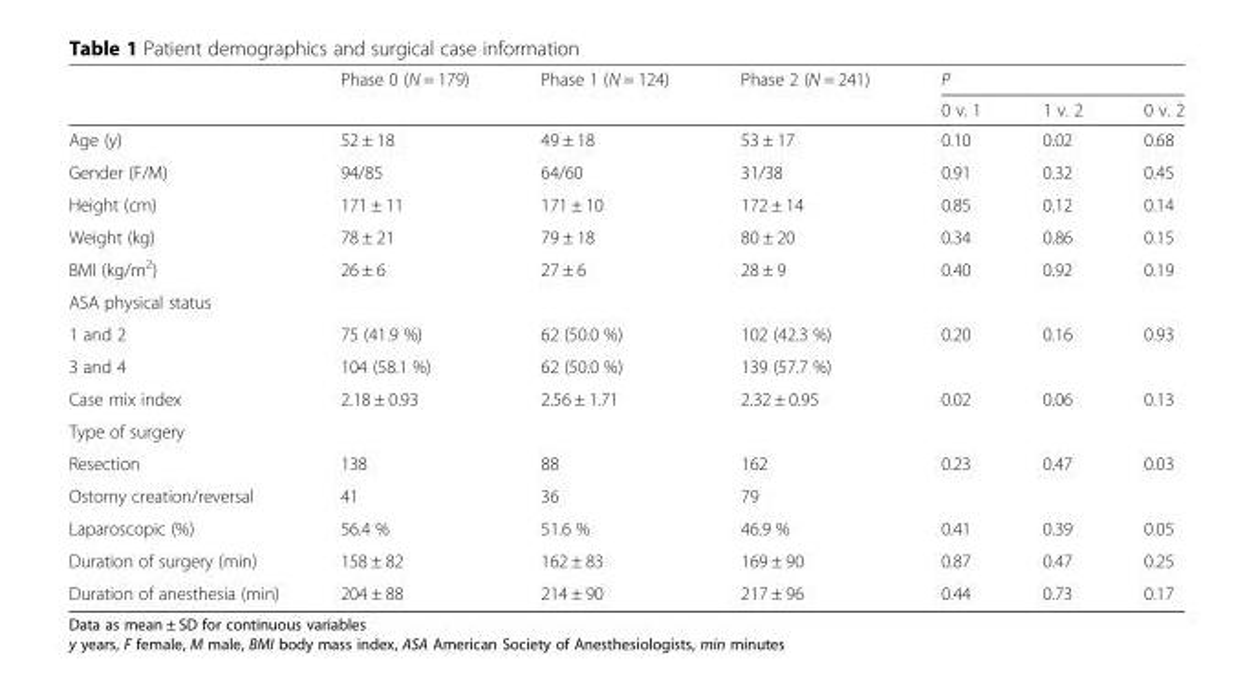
<table><thead><tr><td rowspan="2"></td><td rowspan="2">Phase 0 (N = 179)</td><td rowspan="2">Phase 1 (N = 124)</td><td rowspan="2">Phase 2 (N = 241)</td><td colspan="3">P</td></tr><tr><td>0 v. 1</td><td>1 v. 2</td><td>0 v. 2</td></tr></thead><tbody><tr><td>Age (y)</td><td>52 ± 18</td><td>49 ± 18</td><td>53 ± 17</td><td>0.10</td><td>0.02</td><td>0.68</td></tr><tr><td>Gender (F/M)</td><td>94/85</td><td>64/60</td><td>31/38</td><td>0.91</td><td>0.32</td><td>0.45</td></tr><tr><td>Height (cm)</td><td>171 ± 11</td><td>171 ± 10</td><td>172 ± 14</td><td>0.85</td><td>0.12</td><td>0.14</td></tr><tr><td>Weight (kg)</td><td>78 ± 21</td><td>79 ± 18</td><td>80 ± 20</td><td>0.34</td><td>0.86</td><td>0.15</td></tr><tr><td>BMI (kg/m<sup>2</sup>)</td><td>26 ± 6</td><td>27 ± 6</td><td>28 ± 9</td><td>0.40</td><td>0.92</td><td>0.19</td></tr><tr><td colspan="7">ASA physical status</td></tr><tr><td>1 and 2</td><td>75 (41.9 %)</td><td>62 (50.0 %)</td><td>102 (42.3 %)</td><td rowspan="2">0.20</td><td rowspan="2">0.16</td><td rowspan="2">0.93</td></tr><tr><td>3 and 4</td><td>104 (58.1 %)</td><td>62 (50.0 %)</td><td>139 (57.7 %)</td></tr><tr><td>Case mix index</td><td>2.18 ± 0.93</td><td>2.56 ± 1.71</td><td>2.32 ± 0.95</td><td>0.02</td><td>0.06</td><td>0.13</td></tr><tr><td colspan="7">Type of surgery</td></tr><tr><td>Resection</td><td>138</td><td>88</td><td>162</td><td rowspan="2">0.23</td><td rowspan="2">0.47</td><td rowspan="2">0.03</td></tr><tr><td>Ostomy creation/reversal</td><td>41</td><td>36</td><td>79</td></tr><tr><td>Laparoscopic (%)</td><td>56.4 %</td><td>51.6 %</td><td>46.9 %</td><td>0.41</td><td>0.39</td><td>0.05</td></tr><tr><td>Duration of surgery (min)</td><td>158 ± 82</td><td>162 ± 83</td><td>169 ± 90</td><td>0.87</td><td>0.47</td><td>0.25</td></tr><tr><td>Duration of anesthesia (min)</td><td>204 ± 88</td><td>214 ± 90</td><td>217 ± 96</td><td>0.44</td><td>0.73</td><td>0.17</td></tr></tbody></table>